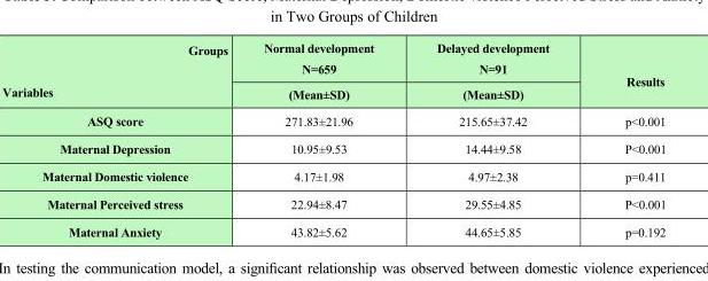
<table><thead><tr><td rowspan="2">Groups</td><td rowspan="2">Normal development N=659 (Mean±SD)</td><td rowspan="2">Delayed development N=91 (Mean±SD)</td><td rowspan="2">Results</td></tr><tr></tr></thead><tbody><tr><td>ASQ score</td><td>271.83±21.96</td><td>215.65±37.42</td><td>p&lt;0.001</td></tr><tr><td>Maternal Depression</td><td>10.95±9.53</td><td>14.44±9.58</td><td>P&lt;0.001</td></tr><tr><td>Maternal Domestic violence</td><td>4.17±1.98</td><td>4.97±2.38</td><td>p=0.411</td></tr><tr><td>Maternal Perceived stress</td><td>22.94±8.47</td><td>29.55±4.85</td><td>P&lt;0.001</td></tr><tr><td>Maternal Anxiety</td><td>43.82±5.62</td><td>44.65±5.85</td><td>p=0.192</td></tr></tbody></table>